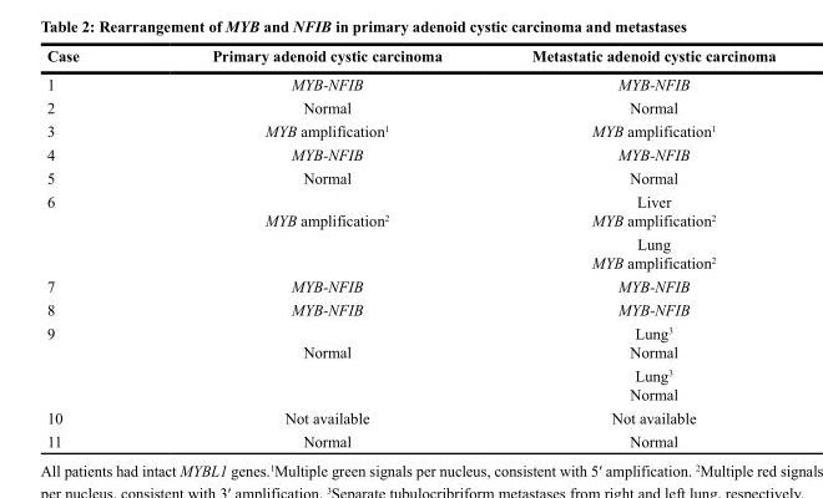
<table><thead><tr><td>Case</td><td>Primary adenoid cystic carcinoma</td><td>Metastatic adenoid cystic carcinoma</td></tr></thead><tbody><tr><td>1</td><td>MYB-NFIB</td><td>MYB-NFIB</td></tr><tr><td>2</td><td>Normal</td><td>Normal</td></tr><tr><td>3</td><td>MYB amplification<sup>1</sup></td><td>MYB amplification<sup>1</sup></td></tr><tr><td>4</td><td>MYB-NFIB</td><td>MYB-NFIB</td></tr><tr><td>5</td><td>Normal</td><td>Normal</td></tr><tr><td rowspan="2">6</td><td>MYB amplification<sup>2</sup></td><td>Liver MYB amplification<sup>2</sup></td></tr><tr><td></td><td>Lung MYB amplification<sup>2</sup></td></tr><tr><td>7</td><td>MYB-NFIB</td><td>MYB-NFIB</td></tr><tr><td>8</td><td>MYB-NFIB</td><td>MYB-NFIB</td></tr><tr><td rowspan="2">9</td><td>Normal</td><td>Lung<sup>3</sup> Normal</td></tr><tr><td></td><td>Lung<sup>3</sup> Normal</td></tr><tr><td>10</td><td>Not available</td><td>Not available</td></tr><tr><td>11</td><td>Normal</td><td>Normal</td></tr></tbody></table>